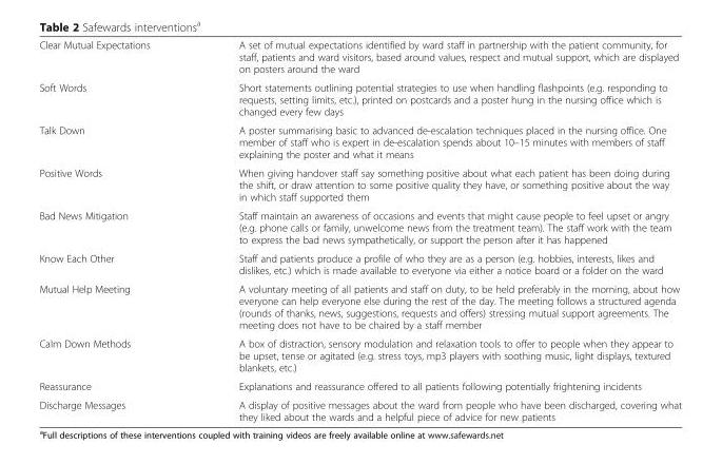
<table><tbody><tr><td>Clear Mutual Expectations</td><td>A set of mutual expectations identified by ward staff in partnership with the patient community, for staff, patients and ward visitors, based around values, respect and mutual support, which are displayed on posters around the ward</td></tr><tr><td>Soft Words</td><td>Short statements outlining potential strategies to use when handling flashpoints (e.g. responding to requests, setting limits, etc.), printed on postcards and a poster hung in the nursing office which is changed every few days</td></tr><tr><td>Talk Down</td><td>A poster summarising basic to advanced de-escalation techniques placed in the nursing office. One member of staff who is expert in de-escalation spends about 10–15 minutes with members of staff explaining the poster and what it means</td></tr><tr><td>Positive Words</td><td>When giving handover staff say something positive about what each patient has been doing during the shift, or draw attention to some positive quality they have, or something positive about the way in which staff supported them</td></tr><tr><td>Bad News Mitigation</td><td>Staff maintain an awareness of occasions and events that might cause people to feel upset or angry (e.g. phone calls or family, unwelcome news from the treatment team). The staff work with the team to express the bad news sympathetically, or support the person after it has happened</td></tr><tr><td>Know Each Other</td><td>Staff and patients produce a profile of who they are as a person (e.g. hobbies, interests, likes and dislikes, etc.) which is made available to everyone via either a notice board or a folder on the ward</td></tr><tr><td>Mutual Help Meeting</td><td>A voluntary meeting of all patients and staff on duty, to be held preferably in the morning, about how everyone can help everyone else during the rest of the day. The meeting follows a structured agenda (rounds of thanks, news, suggestions, requests and offers) stressing mutual support agreements. The meeting does not have to be chaired by a staff member</td></tr><tr><td>Calm Down Methods</td><td>A box of distraction, sensory modulation and relaxation tools to offer to people when they appear to be upset, tense or agitated (e.g. stress toys, mp3 players with soothing music, light displays, textured blankets, etc.)</td></tr><tr><td>Reassurance</td><td>Explanations and reassurance offered to all patients following potentially frightening incidents</td></tr><tr><td>Discharge Messages</td><td>A display of positive messages about the ward from people who have been discharged, covering what they liked about the wards and a helpful piece of advice for new patients</td></tr></tbody></table>